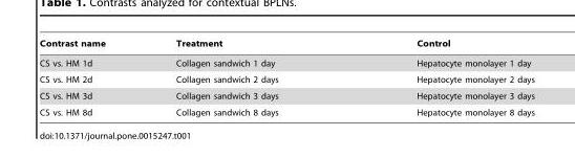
<table><thead><tr><td>Contrast name</td><td>Treatment</td><td>Control</td></tr></thead><tbody><tr><td>CS vs. HM 1d</td><td>Collagen sandwich 1 day</td><td>Hepatocyte monolayer 1 day</td></tr><tr><td>CS vs. HM 2d</td><td>Collagen sandwich 2 days</td><td>Hepatocyte monolayer 2 days</td></tr><tr><td>CS vs. HM 3d</td><td>Collagen sandwich 3 days</td><td>Hepatocyte monolayer 3 days</td></tr><tr><td>CS vs. HM 8d</td><td>Collagen sandwich 8 days</td><td>Hepatocyte monolayer 8 days</td></tr></tbody></table>